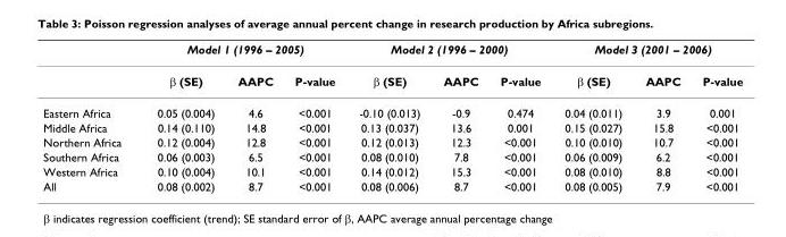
<table><thead><tr><td rowspan="2"></td><td colspan="3">Model 1 (1996 – 2005)</td><td colspan="3">Model 2 (1996 – 2000)</td><td colspan="3">Model 3 (2001 – 2006)</td></tr><tr><td>β (SE)</td><td>AAPC</td><td>P-value</td><td>β (SE)</td><td>AAPC</td><td>P-value</td><td>β (SE)</td><td>AAPC</td><td>P-value</td></tr></thead><tbody><tr><td>Eastern Africa</td><td>0.05 (0.004)</td><td>4.6</td><td>&lt;0.001</td><td>-0.10 (0.013)</td><td>-0.9</td><td>0.474</td><td>0.04 (0.011)</td><td>3.9</td><td>0.001</td></tr><tr><td>Middle Africa</td><td>0.14 (0.110)</td><td>14.8</td><td>&lt;0.001</td><td>0.13 (0.037)</td><td>13.6</td><td>0.001</td><td>0.15 (0.027)</td><td>15.8</td><td>&lt;0.001</td></tr><tr><td>Northern Africa</td><td>0.12 (0.004)</td><td>12.8</td><td>&lt;0.001</td><td>0.12 (0.013)</td><td>12.3</td><td>&lt;0.001</td><td>0.10 (0.010)</td><td>10.7</td><td>&lt;0.001</td></tr><tr><td>Southern Africa</td><td>0.06 (0.003)</td><td>6.5</td><td>&lt;0.001</td><td>0.08 (0.010)</td><td>7.8</td><td>&lt;0.001</td><td>0.06 (0.009)</td><td>6.2</td><td>&lt;0.001</td></tr><tr><td>Western Africa</td><td>0.10 (0.004)</td><td>10.1</td><td>&lt;0.001</td><td>0.14 (0.012)</td><td>15.3</td><td>&lt;0.001</td><td>0.08 (0.010)</td><td>8.8</td><td>&lt;0.001</td></tr><tr><td>All</td><td>0.08 (0.002)</td><td>8.7</td><td>&lt;0.001</td><td>0.08 (0.006)</td><td>8.7</td><td>&lt;0.001</td><td>0.08 (0.005)</td><td>7.9</td><td>&lt;0.001</td></tr></tbody></table>